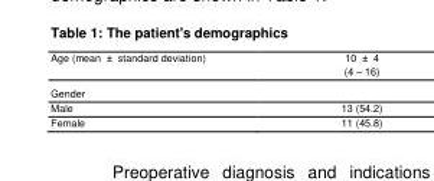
<table><tbody><tr><td>Age (mean ± standard deviation)</td><td>10 ± 4 (4 – 16)</td></tr><tr><td colspan="2">Gender</td></tr><tr><td>Male</td><td>13 (54.2)</td></tr><tr><td>Female</td><td>11 (45.8)</td></tr></tbody></table>